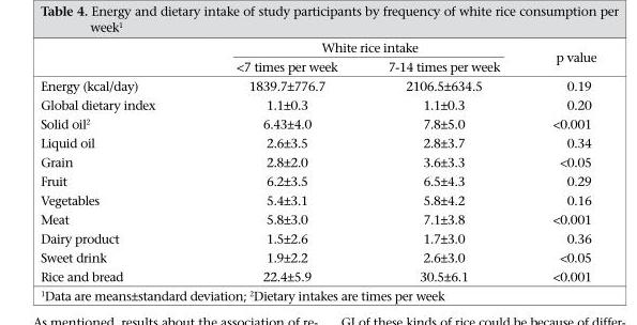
<table><thead><tr><td rowspan="2"></td><td colspan="2">White rice intake</td><td rowspan="2">p value</td></tr><tr><td>&lt;7 times per week</td><td>7-14 times per week</td></tr></thead><tbody><tr><td>Energy (kcal/day)</td><td>1839.7±776.7</td><td>2106.5±634.5</td><td>0.19</td></tr><tr><td>Global dietary index</td><td>1.1±0.3</td><td>1.1±0.3</td><td>0.20</td></tr><tr><td>Solid oil<sup>2</sup></td><td>6.43±4.0</td><td>7.8±5.0</td><td>&lt;0.001</td></tr><tr><td>Liquid oil</td><td>2.6±3.5</td><td>2.8±3.7</td><td>0.34</td></tr><tr><td>Grain</td><td>2.8±2.0</td><td>3.6±3.3</td><td>&lt;0.05</td></tr><tr><td>Fruit</td><td>6.2±3.5</td><td>6.5±4.3</td><td>0.29</td></tr><tr><td>Vegetables</td><td>5.4±3.1</td><td>5.8±4.2</td><td>0.16</td></tr><tr><td>Meat</td><td>5.8±3.0</td><td>7.1±3.8</td><td>&lt;0.001</td></tr><tr><td>Dairy product</td><td>1.5±2.6</td><td>1.7±3.0</td><td>0.36</td></tr><tr><td>Sweet drink</td><td>1.9±2.2</td><td>2.6±3.0</td><td>&lt;0.05</td></tr><tr><td>Rice and bread</td><td>22.4±5.9</td><td>30.5±6.1</td><td>&lt;0.001</td></tr></tbody></table>